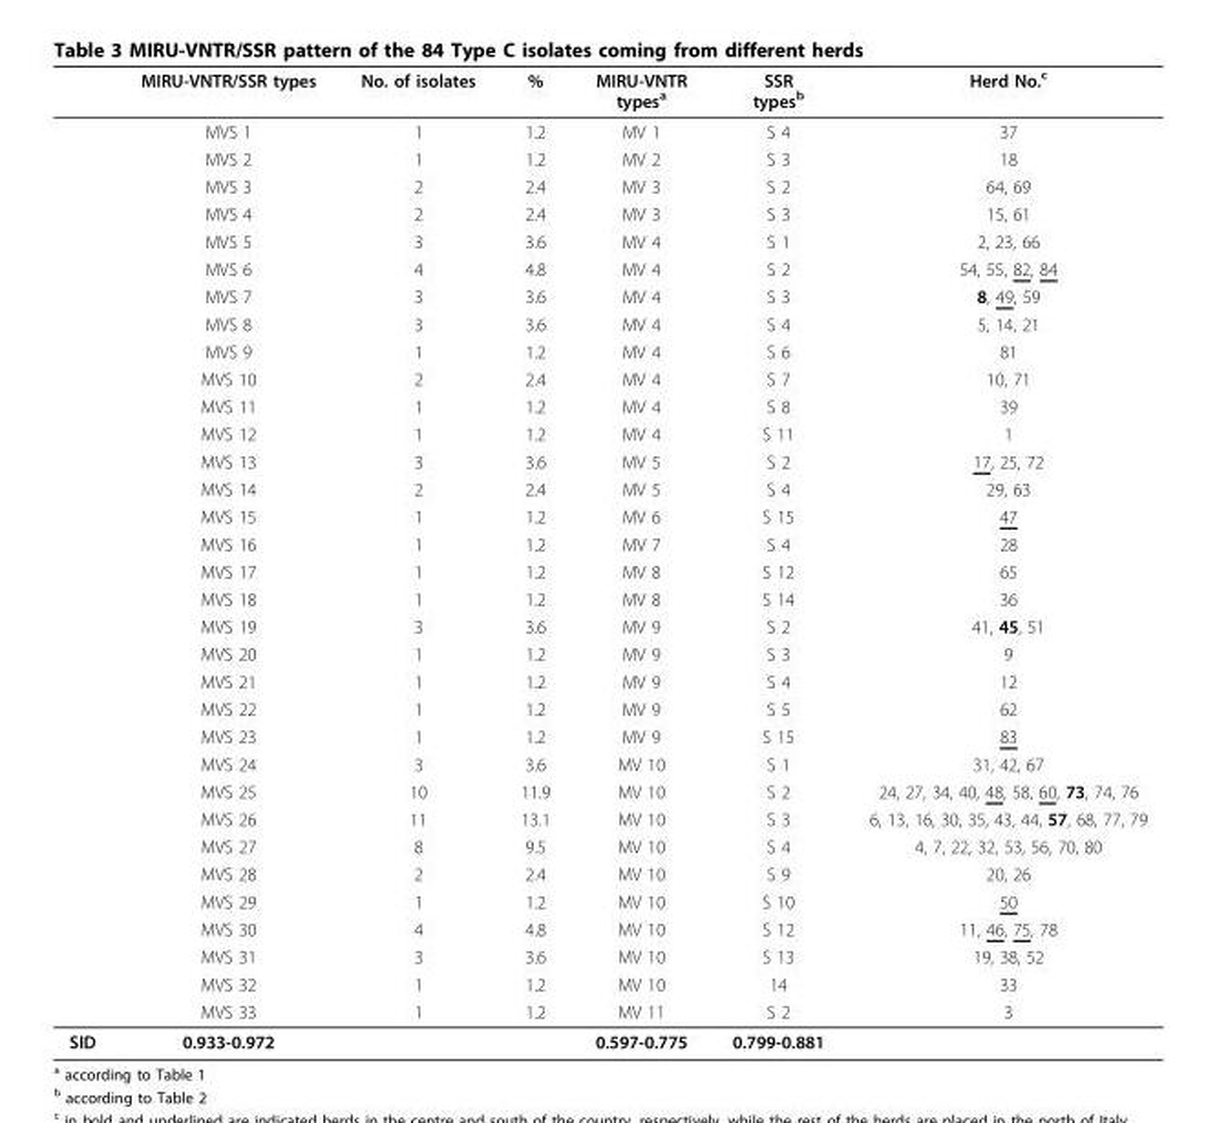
<table><thead><tr><td></td><td>MIRU-VNTR/SSR types</td><td>No. of isolates</td><td>%</td><td>MIRU-VNTR types<sup>a</sup></td><td>SSR types<sup>b</sup></td><td>Herd No.<sup>c</sup></td></tr></thead><tbody><tr><td></td><td>MVS 1</td><td>1</td><td>1.2</td><td>MV 1</td><td>S 4</td><td>37</td></tr><tr><td></td><td>MVS 2</td><td>1</td><td>1.2</td><td>MV 2</td><td>S 3</td><td>18</td></tr><tr><td></td><td>MVS 3</td><td>2</td><td>2.4</td><td>MV 3</td><td>S 2</td><td>64, 69</td></tr><tr><td></td><td>MVS 4</td><td>2</td><td>2.4</td><td>MV 3</td><td>S 3</td><td>15, 61</td></tr><tr><td></td><td>MVS 5</td><td>3</td><td>3.6</td><td>MV 4</td><td>S 1</td><td>2, 23, 66</td></tr><tr><td></td><td>MVS 6</td><td>4</td><td>4.8</td><td>MV 4</td><td>S 2</td><td>54, 55, 82, 84</td></tr><tr><td></td><td>MVS 7</td><td>3</td><td>3.6</td><td>MV 4</td><td>S 3</td><td>8, 49, 59</td></tr><tr><td></td><td>MVS 8</td><td>3</td><td>3.6</td><td>MV 4</td><td>S 4</td><td>5, 14, 21</td></tr><tr><td></td><td>MVS 9</td><td>1</td><td>1.2</td><td>MV 4</td><td>S 6</td><td>81</td></tr><tr><td></td><td>MVS 10</td><td>2</td><td>2.4</td><td>MV 4</td><td>S 7</td><td>10, 71</td></tr><tr><td></td><td>MVS 11</td><td>1</td><td>1.2</td><td>MV 4</td><td>S 8</td><td>39</td></tr><tr><td></td><td>MVS 12</td><td>1</td><td>1.2</td><td>MV 4</td><td>S 11</td><td>1</td></tr><tr><td></td><td>MVS 13</td><td>3</td><td>3.6</td><td>MV 5</td><td>S 2</td><td>17, 25, 72</td></tr><tr><td></td><td>MVS 14</td><td>2</td><td>2.4</td><td>MV 5</td><td>S 4</td><td>29, 63</td></tr><tr><td></td><td>MVS 15</td><td>1</td><td>1.2</td><td>MV 6</td><td>S 15</td><td>47</td></tr><tr><td></td><td>MVS 16</td><td>1</td><td>1.2</td><td>MV 7</td><td>S 4</td><td>28</td></tr><tr><td></td><td>MVS 17</td><td>1</td><td>1.2</td><td>MV 8</td><td>S 12</td><td>65</td></tr><tr><td></td><td>MVS 18</td><td>1</td><td>1.2</td><td>MV 8</td><td>S 14</td><td>36</td></tr><tr><td></td><td>MVS 19</td><td>3</td><td>3.6</td><td>MV 9</td><td>S 2</td><td>41, 45, 51</td></tr><tr><td></td><td>MVS 20</td><td>1</td><td>1.2</td><td>MV 9</td><td>S 3</td><td>9</td></tr><tr><td></td><td>MVS 21</td><td>1</td><td>1.2</td><td>MV 9</td><td>S 4</td><td>12</td></tr><tr><td></td><td>MVS 22</td><td>1</td><td>1.2</td><td>MV 9</td><td>S 5</td><td>62</td></tr><tr><td></td><td>MVS 23</td><td>1</td><td>1.2</td><td>MV 9</td><td>S 15</td><td>83</td></tr><tr><td></td><td>MVS 24</td><td>3</td><td>3.6</td><td>MV 10</td><td>S 1</td><td>31, 42, 67</td></tr><tr><td></td><td>MVS 25</td><td>10</td><td>11.9</td><td>MV 10</td><td>S 2</td><td>24, 27, 34, 40, 48, 58, 60, 73, 74, 76</td></tr><tr><td></td><td>MVS 26</td><td>11</td><td>13.1</td><td>MV 10</td><td>S 3</td><td>6, 13, 16, 30, 35, 43, 44, 57, 68, 77, 79</td></tr><tr><td></td><td>MVS 27</td><td>8</td><td>9.5</td><td>MV 10</td><td>S 4</td><td>4, 7, 22, 32, 53, 56, 70, 80</td></tr><tr><td></td><td>MVS 28</td><td>2</td><td>2.4</td><td>MV 10</td><td>S 9</td><td>20, 26</td></tr><tr><td></td><td>MVS 29</td><td>1</td><td>1.2</td><td>MV 10</td><td>S 10</td><td>50</td></tr><tr><td></td><td>MVS 30</td><td>4</td><td>4.8</td><td>MV 10</td><td>S 12</td><td>11, 46, 75, 78</td></tr><tr><td></td><td>MVS 31</td><td>3</td><td>3.6</td><td>MV 10</td><td>S 13</td><td>19, 38, 52</td></tr><tr><td></td><td>MVS 32</td><td>1</td><td>1.2</td><td>MV 10</td><td>14</td><td>33</td></tr><tr><td></td><td>MVS 33</td><td>1</td><td>1.2</td><td>MV 11</td><td>S 2</td><td>3</td></tr><tr><td>SID</td><td>0.933-0.972</td><td></td><td></td><td>0.597-0.775</td><td>0.799-0.881</td><td></td></tr></tbody></table>